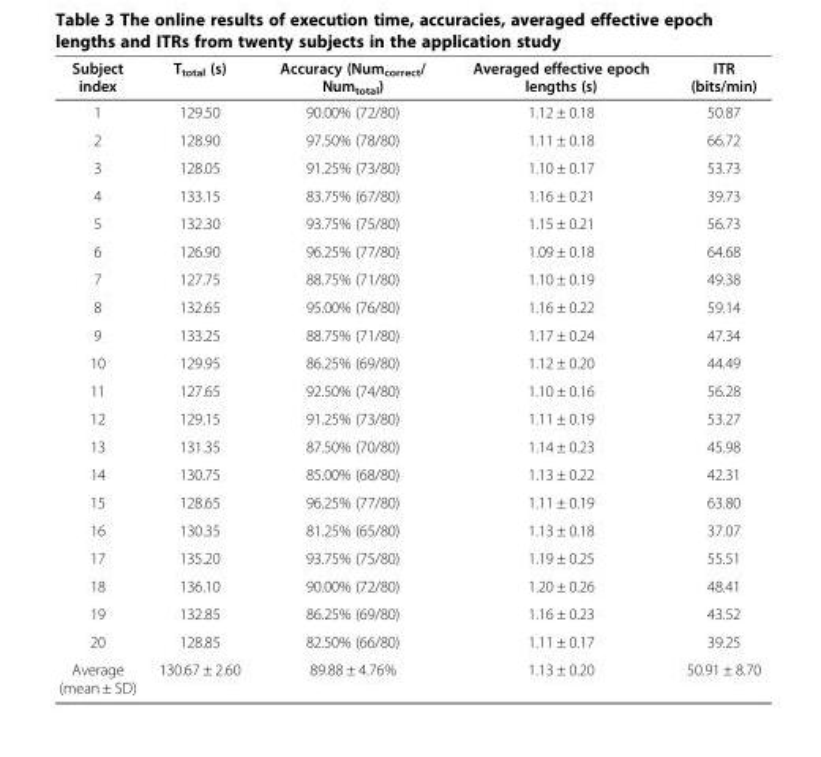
<table><thead><tr><td>Subject index</td><td>T<sub>total</sub> (s)</td><td>Accuracy (Num<sub>correct</sub>/ Num<sub>total</sub>)</td><td>Averaged effective epoch lengths (s)</td><td>ITR (bits/min)</td></tr></thead><tbody><tr><td>1</td><td>129.50</td><td>90.00% (72/80)</td><td>1.12 ± 0.18</td><td>50.87</td></tr><tr><td>2</td><td>128.90</td><td>97.50% (78/80)</td><td>1.11 ± 0.18</td><td>66.72</td></tr><tr><td>3</td><td>128.05</td><td>91.25% (73/80)</td><td>1.10 ± 0.17</td><td>53.73</td></tr><tr><td>4</td><td>133.15</td><td>83.75% (67/80)</td><td>1.16 ± 0.21</td><td>39.73</td></tr><tr><td>5</td><td>132.30</td><td>93.75% (75/80)</td><td>1.15 ± 0.21</td><td>56.73</td></tr><tr><td>6</td><td>126.90</td><td>96.25% (77/80)</td><td>1.09 ± 0.18</td><td>64.68</td></tr><tr><td>7</td><td>127.75</td><td>88.75% (71/80)</td><td>1.10 ± 0.19</td><td>49.38</td></tr><tr><td>8</td><td>132.65</td><td>95.00% (76/80)</td><td>1.16 ± 0.22</td><td>59.14</td></tr><tr><td>9</td><td>133.25</td><td>88.75% (71/80)</td><td>1.17 ± 0.24</td><td>47.34</td></tr><tr><td>10</td><td>129.95</td><td>86.25% (69/80)</td><td>1.12 ± 0.20</td><td>44.49</td></tr><tr><td>11</td><td>127.65</td><td>92.50% (74/80)</td><td>1.10 ± 0.16</td><td>56.28</td></tr><tr><td>12</td><td>129.15</td><td>91.25% (73/80)</td><td>1.11 ± 0.19</td><td>53.27</td></tr><tr><td>13</td><td>131.35</td><td>87.50% (70/80)</td><td>1.14 ± 0.23</td><td>45.98</td></tr><tr><td>14</td><td>130.75</td><td>85.00% (68/80)</td><td>1.13 ± 0.22</td><td>42.31</td></tr><tr><td>15</td><td>128.65</td><td>96.25% (77/80)</td><td>1.11 ± 0.19</td><td>63.80</td></tr><tr><td>16</td><td>130.35</td><td>81.25% (65/80)</td><td>1.13 ± 0.18</td><td>37.07</td></tr><tr><td>17</td><td>135.20</td><td>93.75% (75/80)</td><td>1.19 ± 0.25</td><td>55.51</td></tr><tr><td>18</td><td>136.10</td><td>90.00% (72/80)</td><td>1.20 ± 0.26</td><td>48.41</td></tr><tr><td>19</td><td>132.85</td><td>86.25% (69/80)</td><td>1.16 ± 0.23</td><td>43.52</td></tr><tr><td>20</td><td>128.85</td><td>82.50% (66/80)</td><td>1.11 ± 0.17</td><td>39.25</td></tr><tr><td>Average (mean ± SD)</td><td>130.67 ± 2.60</td><td>89.88 ± 4.76%</td><td>1.13 ± 0.20</td><td>50.91 ± 8.70</td></tr></tbody></table>